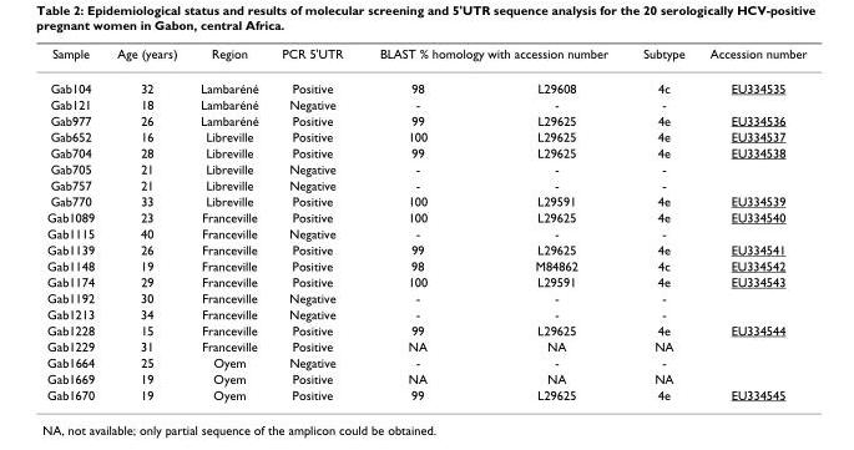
<table><thead><tr><td rowspan="2">Sample Gab104</td><td rowspan="2">Age (years) 32</td><td rowspan="2">Region Lambaréné</td><td rowspan="2">PCR 5&#x27;UTR Positive</td><td colspan="2">BLAST % homology with accession number</td><td rowspan="2">Subtype 4c</td><td rowspan="2">Accession number EU334535</td></tr><tr><td>98</td><td>L29608</td></tr></thead><tbody><tr><td>Gab121</td><td>18</td><td>Lambaréné</td><td>Negative</td><td>-</td><td>-</td><td>-</td><td></td></tr><tr><td>Gab977</td><td>26</td><td>Lambaréné</td><td>Positive</td><td>99</td><td>L29625</td><td>4e</td><td>EU334536</td></tr><tr><td>Gab652</td><td>16</td><td>Libreville</td><td>Positive</td><td>100</td><td>L29625</td><td>4e</td><td>EU334537</td></tr><tr><td>Gab704</td><td>28</td><td>Libreville</td><td>Positive</td><td>99</td><td>L29625</td><td>4e</td><td>EU334538</td></tr><tr><td>Gab705</td><td>21</td><td>Libreville</td><td>Negative</td><td>-</td><td>-</td><td>-</td><td></td></tr><tr><td>Gab757</td><td>21</td><td>Libreville</td><td>Negative</td><td>-</td><td>-</td><td>-</td><td></td></tr><tr><td>Gab770</td><td>33</td><td>Libreville</td><td>Positive</td><td>100</td><td>L29591</td><td>4e</td><td>EU334539</td></tr><tr><td>Gab1089</td><td>23</td><td>Franceville</td><td>Positive</td><td>100</td><td>L29625</td><td>4e</td><td>EU334540</td></tr><tr><td>Gab1115</td><td>40</td><td>Franceville</td><td>Negative</td><td>-</td><td>-</td><td>-</td><td></td></tr><tr><td>Gab1139</td><td>26</td><td>Franceville</td><td>Positive</td><td>99</td><td>L29625</td><td>4e</td><td>EU334541</td></tr><tr><td>Gab1148</td><td>19</td><td>Franceville</td><td>Positive</td><td>98</td><td>M84862</td><td>4c</td><td>EU334542</td></tr><tr><td>Gab1174</td><td>29</td><td>Franceville</td><td>Positive</td><td>100</td><td>L29591</td><td>4e</td><td>EU334543</td></tr><tr><td>Gab1192</td><td>30</td><td>Franceville</td><td>Negative</td><td>-</td><td>-</td><td>-</td><td></td></tr><tr><td>Gab1213</td><td>34</td><td>Franceville</td><td>Negative</td><td>-</td><td>-</td><td>-</td><td></td></tr><tr><td>Gab1228</td><td>15</td><td>Franceville</td><td>Positive</td><td>99</td><td>L29625</td><td>4e</td><td>EU334544</td></tr><tr><td>Gab1229</td><td>31</td><td>Franceville</td><td>Positive</td><td>NA</td><td>NA</td><td>NA</td><td></td></tr><tr><td>Gab1664</td><td>25</td><td>Oyem</td><td>Negative</td><td>-</td><td>-</td><td>-</td><td></td></tr><tr><td>Gab1669</td><td>19</td><td>Oyem</td><td>Positive</td><td>NA</td><td>NA</td><td>NA</td><td></td></tr><tr><td>Gab1670</td><td>19</td><td>Oyem</td><td>Positive</td><td>99</td><td>L29625</td><td>4e</td><td>EU334545</td></tr></tbody></table>